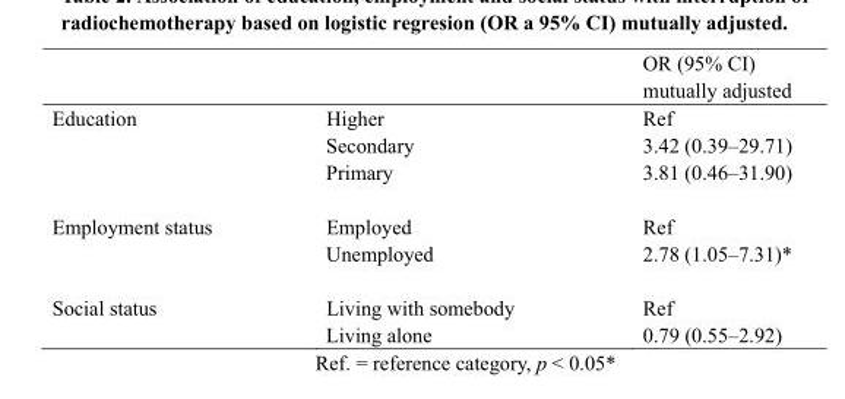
<table><thead><tr><td></td><td></td><td>OR (95% CI) mutually adjusted</td></tr></thead><tbody><tr><td rowspan="3">Education</td><td>Higher</td><td>Ref</td></tr><tr><td>Secondary</td><td>3.42 (0.39–29.71)</td></tr><tr><td>Primary</td><td>3.81 (0.46–31.90)</td></tr><tr><td rowspan="2">Employment status</td><td>Employed</td><td>Ref</td></tr><tr><td>Unemployed</td><td>2.78 (1.05–7.31)*</td></tr><tr><td rowspan="2">Social status</td><td>Living with somebody</td><td>Ref</td></tr><tr><td>Living alone</td><td>0.79 (0.55–2.92)</td></tr></tbody></table>